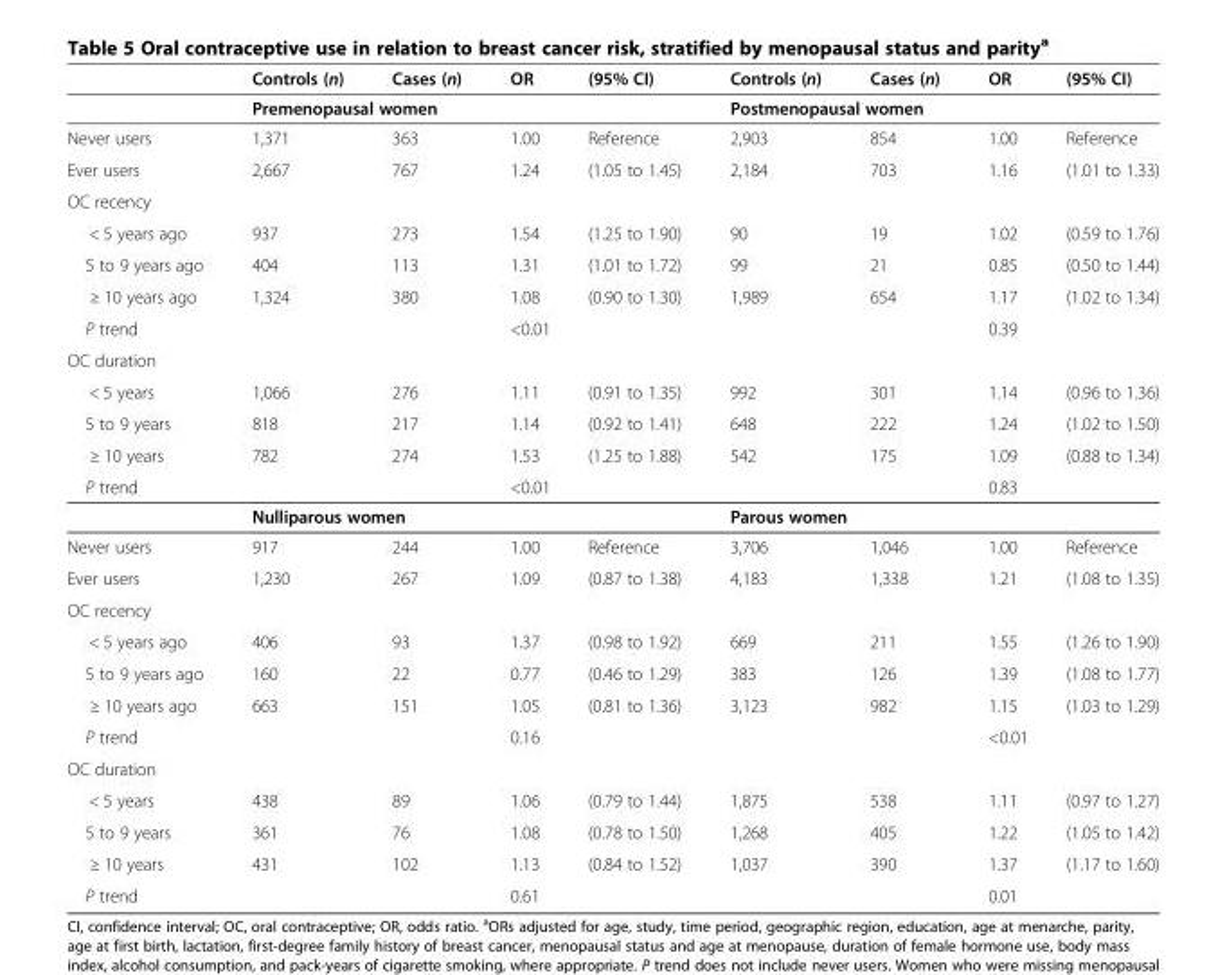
<table><thead><tr><td></td><td>Controls (n)</td><td>Cases (n)</td><td>OR</td><td>(95% CI)</td><td>Controls (n)</td><td>Cases (n)</td><td>OR</td><td>(95% CI)</td></tr></thead><tbody><tr><td></td><td colspan="4">Premenopausal women</td><td colspan="4">Postmenopausal women</td></tr><tr><td>Never users</td><td>1,371</td><td>363</td><td>1.00</td><td>Reference</td><td>2,903</td><td>854</td><td>1.00</td><td>Reference</td></tr><tr><td>Ever users</td><td>2,667</td><td>767</td><td>1.24</td><td>(1.05 to 1.45)</td><td>2,184</td><td>703</td><td>1.16</td><td>(1.01 to 1.33)</td></tr><tr><td colspan="9">OC recency</td></tr><tr><td>&lt; 5 years ago</td><td>937</td><td>273</td><td>1.54</td><td>(1.25 to 1.90)</td><td>90</td><td>19</td><td>1.02</td><td>(0.59 to 1.76)</td></tr><tr><td>5 to 9 years ago</td><td>404</td><td>113</td><td>1.31</td><td>(1.01 to 1.72)</td><td>99</td><td>21</td><td>0.85</td><td>(0.50 to 1.44)</td></tr><tr><td>≥ 10 years ago</td><td>1,324</td><td>380</td><td>1.08</td><td>(0.90 to 1.30)</td><td>1,989</td><td>654</td><td>1.17</td><td>(1.02 to 1.34)</td></tr><tr><td>P trend</td><td></td><td></td><td colspan="2">&lt;0.01</td><td></td><td></td><td colspan="2">0.39</td></tr><tr><td colspan="9">OC duration</td></tr><tr><td>&lt; 5 years</td><td>1,066</td><td>276</td><td>1.11</td><td>(0.91 to 1.35)</td><td>992</td><td>301</td><td>1.14</td><td>(0.96 to 1.36)</td></tr><tr><td>5 to 9 years</td><td>818</td><td>217</td><td>1.14</td><td>(0.92 to 1.41)</td><td>648</td><td>222</td><td>1.24</td><td>(1.02 to 1.50)</td></tr><tr><td>≥ 10 years</td><td>782</td><td>274</td><td>1.53</td><td>(1.25 to 1.88)</td><td>542</td><td>175</td><td>1.09</td><td>(0.88 to 1.34)</td></tr><tr><td rowspan="2">P trend</td><td></td><td></td><td colspan="2">&lt;0.01</td><td></td><td></td><td colspan="2">0.83</td></tr><tr><td colspan="4">Nulliparous women</td><td colspan="4">Parous women</td></tr><tr><td>Never users</td><td>917</td><td>244</td><td>1.00</td><td>Reference</td><td>3,706</td><td>1,046</td><td>1.00</td><td>Reference</td></tr><tr><td>Ever users</td><td>1,230</td><td>267</td><td>1.09</td><td>(0.87 to 1.38)</td><td>4,183</td><td>1,338</td><td>1.21</td><td>(1.08 to 1.35)</td></tr><tr><td colspan="9">OC recency</td></tr><tr><td>&lt; 5 years ago</td><td>406</td><td>93</td><td>1.37</td><td>(0.98 to 1.92)</td><td>669</td><td>211</td><td>1.55</td><td>(1.26 to 1.90)</td></tr><tr><td>5 to 9 years ago</td><td>160</td><td>22</td><td>0.77</td><td>(0.46 to 1.29)</td><td>383</td><td>126</td><td>1.39</td><td>(1.08 to 1.77)</td></tr><tr><td>≥ 10 years ago</td><td>663</td><td>151</td><td>1.05</td><td>(0.81 to 1.36)</td><td>3,123</td><td>982</td><td>1.15</td><td>(1.03 to 1.29)</td></tr><tr><td>P trend</td><td></td><td></td><td colspan="2">0.16</td><td></td><td></td><td colspan="2">&lt;0.01</td></tr><tr><td colspan="9">OC duration</td></tr><tr><td>&lt; 5 years</td><td>438</td><td>89</td><td>1.06</td><td>(0.79 to 1.44)</td><td>1,875</td><td>538</td><td>1.11</td><td>(0.97 to 1.27)</td></tr><tr><td>5 to 9 years</td><td>361</td><td>76</td><td>1.08</td><td>(0.78 to 1.50)</td><td>1,268</td><td>405</td><td>1.22</td><td>(1.05 to 1.42)</td></tr><tr><td>≥ 10 years</td><td>431</td><td>102</td><td>1.13</td><td>(0.84 to 1.52)</td><td>1,037</td><td>390</td><td>1.37</td><td>(1.17 to 1.60)</td></tr><tr><td>P trend</td><td></td><td></td><td colspan="2">0.61</td><td></td><td></td><td colspan="2">0.01</td></tr></tbody></table>